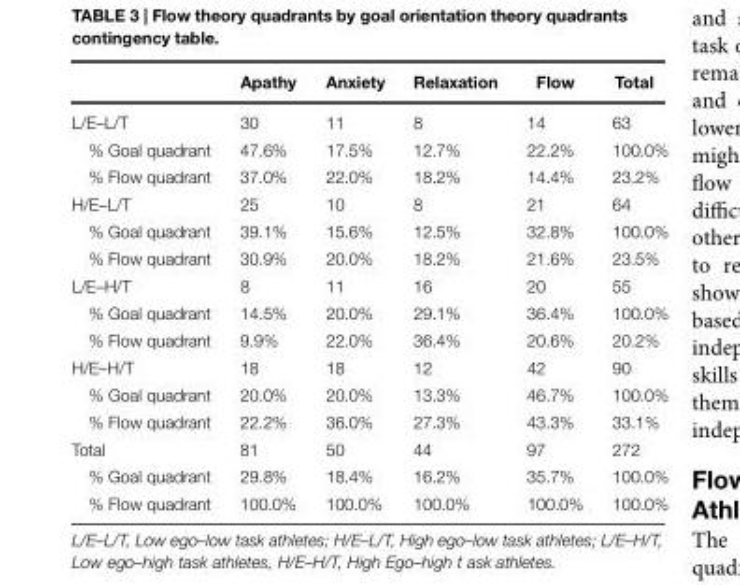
<table><thead><tr><td></td><td>Apathy</td><td>Anxiety</td><td>Relaxation</td><td>Flow</td><td>Total</td></tr></thead><tbody><tr><td>L/E–L/T</td><td>30</td><td>11</td><td>8</td><td>14</td><td>63</td></tr><tr><td>% Goal quadrant</td><td>47.6%</td><td>17.5%</td><td>12.7%</td><td>22.2%</td><td>100.0%</td></tr><tr><td>% Flow quadrant</td><td>37.0%</td><td>22.0%</td><td>18.2%</td><td>14.4%</td><td>23.2%</td></tr><tr><td>H/E–L/T</td><td>25</td><td>10</td><td>8</td><td>21</td><td>64</td></tr><tr><td>% Goal quadrant</td><td>39.1%</td><td>15.6%</td><td>12.5%</td><td>32.8%</td><td>100.0%</td></tr><tr><td>% Flow quadrant</td><td>30.9%</td><td>20.0%</td><td>18.2%</td><td>21.6%</td><td>23.5%</td></tr><tr><td>L/E–H/T</td><td>8</td><td>11</td><td>16</td><td>20</td><td>55</td></tr><tr><td>% Goal quadrant</td><td>14.5%</td><td>20.0%</td><td>29.1%</td><td>36.4%</td><td>100.0%</td></tr><tr><td>% Flow quadrant</td><td>9.9%</td><td>22.0%</td><td>36.4%</td><td>20.6%</td><td>20.2%</td></tr><tr><td>H/E–H/T</td><td>18</td><td>18</td><td>12</td><td>42</td><td>90</td></tr><tr><td>% Goal quadrant</td><td>20.0%</td><td>20.0%</td><td>13.3%</td><td>46.7%</td><td>100.0%</td></tr><tr><td>% Flow quadrant</td><td>22.2%</td><td>36.0%</td><td>27.3%</td><td>43.3%</td><td>33.1%</td></tr><tr><td>Total</td><td>81</td><td>50</td><td>44</td><td>97</td><td>272</td></tr><tr><td>% Goal quadrant</td><td>29.8%</td><td>18.4%</td><td>16.2%</td><td>35.7%</td><td>100.0%</td></tr><tr><td>% Flow quadrant</td><td>100.0%</td><td>100.0%</td><td>100.0%</td><td>100.0%</td><td>100.0%</td></tr></tbody></table>